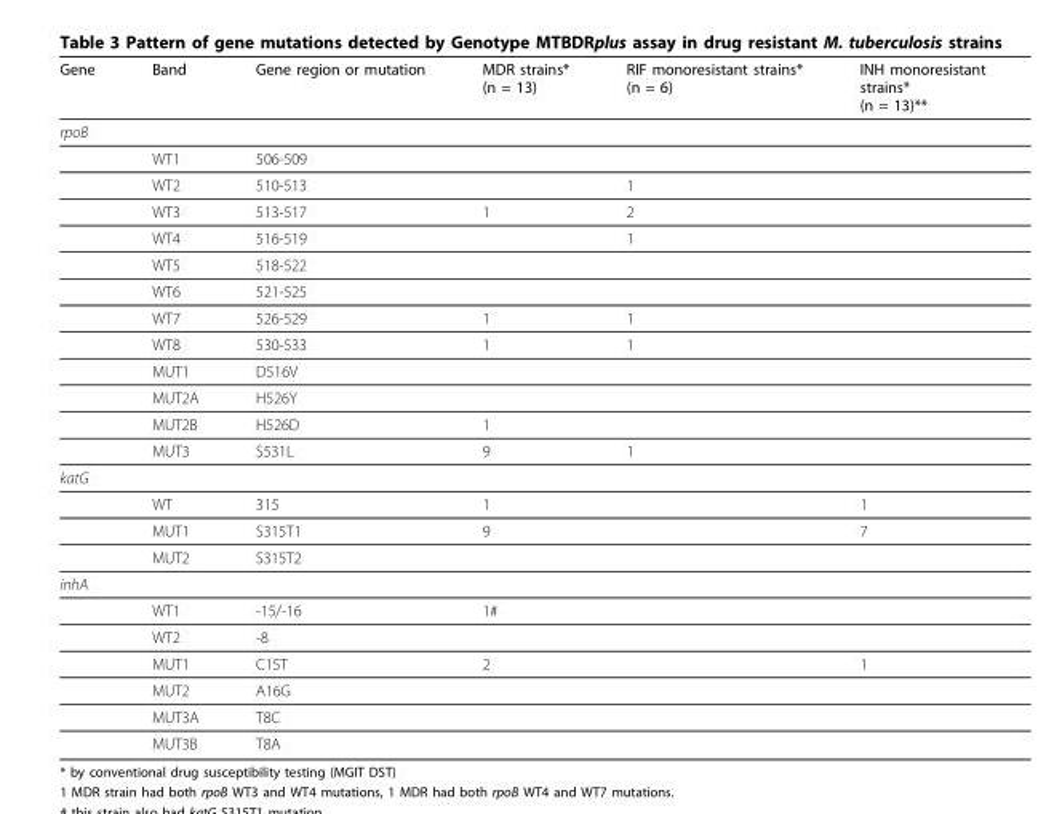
<table><thead><tr><td>Gene</td><td>Band</td><td>Gene region or mutation</td><td>MDR strains* (n = 13)</td><td>RIF monoresistant strains* (n = 6)</td><td>INH monoresistant strains* (n = 13)**</td></tr></thead><tbody><tr><td colspan="6">rpoB</td></tr><tr><td></td><td>WT1</td><td>506-509</td><td></td><td></td><td></td></tr><tr><td></td><td>WT2</td><td>510-513</td><td></td><td>1</td><td></td></tr><tr><td></td><td>WT3</td><td>513-517</td><td>1</td><td>2</td><td></td></tr><tr><td></td><td>WT4</td><td>516-519</td><td></td><td>1</td><td></td></tr><tr><td></td><td>WT5</td><td>518-522</td><td></td><td></td><td></td></tr><tr><td></td><td>WT6</td><td>521-525</td><td></td><td></td><td></td></tr><tr><td></td><td>WT7</td><td>526-529</td><td>1</td><td>1</td><td></td></tr><tr><td></td><td>WT8</td><td>530-533</td><td>1</td><td>1</td><td></td></tr><tr><td></td><td>MUT1</td><td>D516V</td><td></td><td></td><td></td></tr><tr><td></td><td>MUT2A</td><td>H526Y</td><td></td><td></td><td></td></tr><tr><td></td><td>MUT2B</td><td>H526D</td><td>1</td><td></td><td></td></tr><tr><td></td><td>MUT3</td><td>S531L</td><td>9</td><td>1</td><td></td></tr><tr><td colspan="6">katG</td></tr><tr><td></td><td>WT</td><td>315</td><td>1</td><td></td><td>1</td></tr><tr><td></td><td>MUT1</td><td>S315T1</td><td>9</td><td></td><td>7</td></tr><tr><td></td><td>MUT2</td><td>S315T2</td><td></td><td></td><td></td></tr><tr><td colspan="6">inhA</td></tr><tr><td></td><td>WT1</td><td>-15/-16</td><td>1#</td><td></td><td></td></tr><tr><td></td><td>WT2</td><td>-8</td><td></td><td></td><td></td></tr><tr><td></td><td>MUT1</td><td>C15T</td><td>2</td><td></td><td>1</td></tr><tr><td></td><td>MUT2</td><td>A16G</td><td></td><td></td><td></td></tr><tr><td></td><td>MUT3A</td><td>T8C</td><td></td><td></td><td></td></tr><tr><td></td><td>MUT3B</td><td>T8A</td><td></td><td></td><td></td></tr></tbody></table>